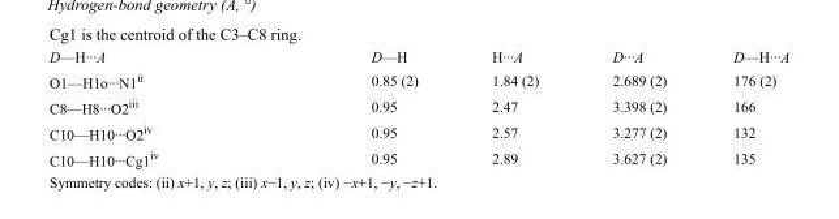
<table><tbody><tr><td>D—H···A</td><td>D—H</td><td>H···A</td><td>D···A</td><td>D—H···A</td></tr><tr><td>O1—H1o···N1<sup>ii</sup></td><td>0.85 (2)</td><td>1.84 (2)</td><td>2.689 (2)</td><td>176 (2)</td></tr><tr><td>C8—H8···O2<sup>iii</sup></td><td>0.95</td><td>2.47</td><td>3.398 (2)</td><td>166</td></tr><tr><td>C10—H10···O2<sup>iv</sup></td><td>0.95</td><td>2.57</td><td>3.277 (2)</td><td>132</td></tr><tr><td>C10—H10···Cg1<sup>iv</sup></td><td>0.95</td><td>2.89</td><td>3.627 (2)</td><td>135</td></tr></tbody></table>